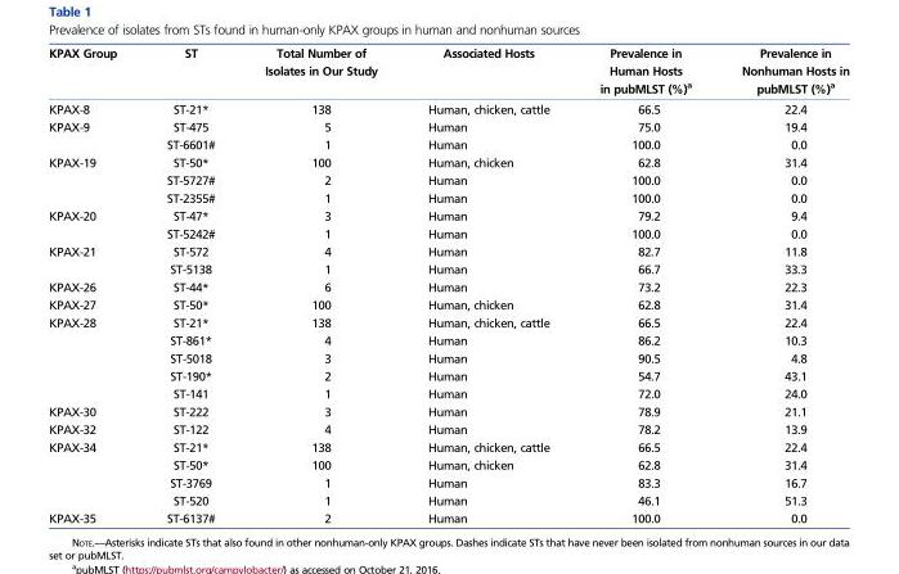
<table><thead><tr><td>KPAX Group</td><td>ST</td><td>Total Number of Isolates in Our Study</td><td>Associated Hosts</td><td>Prevalence in Human Hosts in pubMLST (%)<sup>a</sup></td><td>Prevalence in Nonhuman Hosts in pubMLST (%)<sup>a</sup></td></tr></thead><tbody><tr><td>KPAX-8</td><td>ST-21*</td><td>138</td><td>Human, chicken, cattle</td><td>66.5</td><td>22.4</td></tr><tr><td rowspan="2">KPAX-9</td><td>ST-475</td><td>5</td><td>Human</td><td>75.0</td><td>19.4</td></tr><tr><td>ST-6601#</td><td>1</td><td>Human</td><td>100.0</td><td>0.0</td></tr><tr><td rowspan="3">KPAX-19</td><td>ST-50*</td><td>100</td><td>Human, chicken</td><td>62.8</td><td>31.4</td></tr><tr><td>ST-5727#</td><td>2</td><td>Human</td><td>100.0</td><td>0.0</td></tr><tr><td>ST-2355#</td><td>1</td><td>Human</td><td>100.0</td><td>0.0</td></tr><tr><td rowspan="2">KPAX-20</td><td>ST-47*</td><td>3</td><td>Human</td><td>79.2</td><td>9.4</td></tr><tr><td>ST-5242#</td><td>1</td><td>Human</td><td>100.0</td><td>0.0</td></tr><tr><td rowspan="2">KPAX-21</td><td>ST-572</td><td>4</td><td>Human</td><td>82.7</td><td>11.8</td></tr><tr><td>ST-5138</td><td>1</td><td>Human</td><td>66.7</td><td>33.3</td></tr><tr><td>KPAX-26</td><td>ST-44*</td><td>6</td><td>Human</td><td>73.2</td><td>22.3</td></tr><tr><td>KPAX-27</td><td>ST-50*</td><td>100</td><td>Human, chicken</td><td>62.8</td><td>31.4</td></tr><tr><td rowspan="5">KPAX-28</td><td>ST-21*</td><td>138</td><td>Human, chicken, cattle</td><td>66.5</td><td>22.4</td></tr><tr><td>ST-861*</td><td>4</td><td>Human</td><td>86.2</td><td>10.3</td></tr><tr><td>ST-5018</td><td>3</td><td>Human</td><td>90.5</td><td>4.8</td></tr><tr><td>ST-190*</td><td>2</td><td>Human</td><td>54.7</td><td>43.1</td></tr><tr><td>ST-141</td><td>1</td><td>Human</td><td>72.0</td><td>24.0</td></tr><tr><td>KPAX-30</td><td>ST-222</td><td>3</td><td>Human</td><td>78.9</td><td>21.1</td></tr><tr><td>KPAX-32</td><td>ST-122</td><td>4</td><td>Human</td><td>78.2</td><td>13.9</td></tr><tr><td rowspan="4">KPAX-34</td><td>ST-21*</td><td>138</td><td>Human, chicken, cattle</td><td>66.5</td><td>22.4</td></tr><tr><td>ST-50*</td><td>100</td><td>Human, chicken</td><td>62.8</td><td>31.4</td></tr><tr><td>ST-3769</td><td>1</td><td>Human</td><td>83.3</td><td>16.7</td></tr><tr><td>ST-520</td><td>1</td><td>Human</td><td>46.1</td><td>51.3</td></tr><tr><td>KPAX-35</td><td>ST-6137#</td><td>2</td><td>Human</td><td>100.0</td><td>0.0</td></tr></tbody></table>